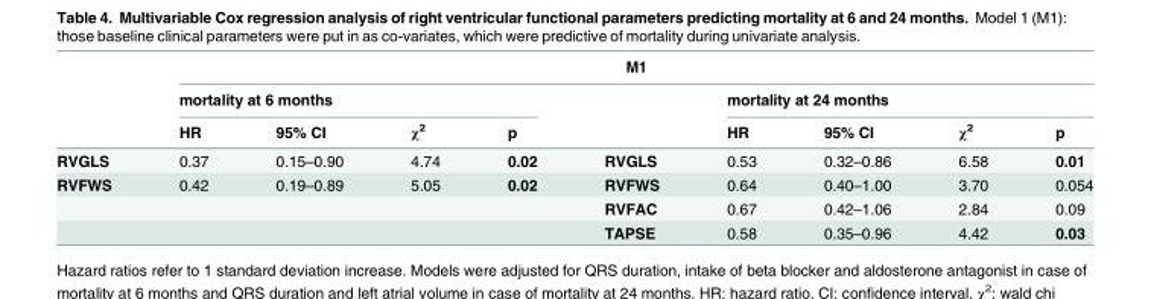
<table><thead><tr><td rowspan="3"></td><td colspan="9">M1</td></tr><tr><td colspan="4">mortality at 6 months</td><td rowspan="2"></td><td colspan="4">mortality at 24 months</td></tr><tr><td>HR</td><td>95% CI</td><td>χ<sup>2</sup></td><td>p</td><td>HR</td><td>95% CI</td><td>χ<sup>2</sup></td><td>p</td></tr></thead><tbody><tr><td>RVGLS</td><td>0.37</td><td>0.15–0.90</td><td>4.74</td><td>0.02</td><td>RVGLS</td><td>0.53</td><td>0.32–0.86</td><td>6.58</td><td>0.01</td></tr><tr><td rowspan="3">RVFWS</td><td>0.42</td><td>0.19–0.89</td><td>5.05</td><td>0.02</td><td>RVFWS</td><td>0.64</td><td>0.40–1.00</td><td>3.70</td><td>0.054</td></tr><tr><td></td><td></td><td></td><td></td><td>RVFAC</td><td>0.67</td><td>0.42–1.06</td><td>2.84</td><td>0.09</td></tr><tr><td></td><td></td><td></td><td></td><td>TAPSE</td><td>0.58</td><td>0.35–0.96</td><td>4.42</td><td>0.03</td></tr></tbody></table>